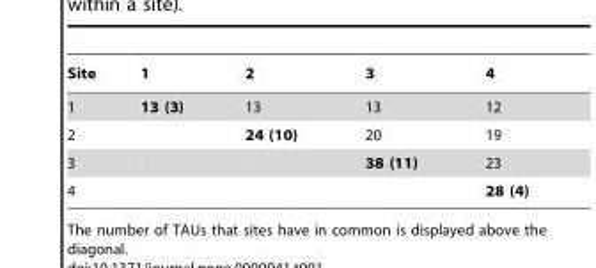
<table><thead><tr><td>Site</td><td>1</td><td>2</td><td>3</td><td>4</td></tr></thead><tbody><tr><td>1</td><td>13 (3)</td><td>13</td><td>13</td><td>12</td></tr><tr><td>2</td><td></td><td>24 (10)</td><td>20</td><td>19</td></tr><tr><td>3</td><td></td><td></td><td>38 (11)</td><td>23</td></tr><tr><td>4</td><td></td><td></td><td></td><td>28 (4)</td></tr></tbody></table>